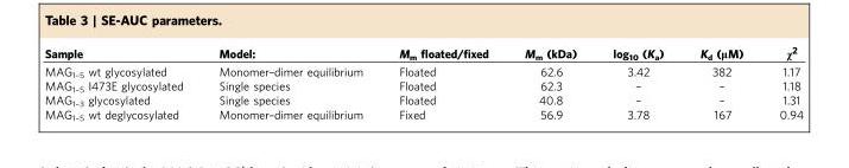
<table><thead><tr><td>Sample</td><td>Model:</td><td>M<sub>m</sub> floated/fixed</td><td>M<sub>m</sub> (kDa)</td><td>log<sub>10</sub> (K<sub>a</sub>)</td><td>K<sub>d</sub> (μM)</td><td>χ<sup>2</sup></td></tr></thead><tbody><tr><td>MAG<sub>1–5</sub> wt glycosylated</td><td>Monomer–dimer equilibrium</td><td>Floated</td><td>62.6</td><td>3.42</td><td>382</td><td>1.17</td></tr><tr><td>MAG<sub>1–5</sub> I473E glycosylated</td><td>Single species</td><td>Floated</td><td>62.3</td><td>–</td><td>–</td><td>1.18</td></tr><tr><td>MAG<sub>1–3</sub> glycosylated</td><td>Single species</td><td>Floated</td><td>40.8</td><td>–</td><td>–</td><td>1.31</td></tr><tr><td>MAG<sub>1–5</sub> wt deglycosylated</td><td>Monomer–dimer equilibrium</td><td>Fixed</td><td>56.9</td><td>3.78</td><td>167</td><td>0.94</td></tr></tbody></table>